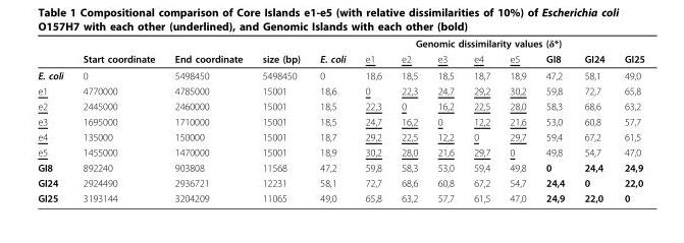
<table><thead><tr><td rowspan="2"></td><td rowspan="2">Start coordinate</td><td rowspan="2">End coordinate</td><td rowspan="2">size (bp)</td><td colspan="9">Genomic dissimilarity values (δ*)</td></tr><tr><td>E. coli</td><td>e1</td><td>e2</td><td>e3</td><td>e4</td><td>e5</td><td>GI8</td><td>GI24</td><td>GI25</td></tr></thead><tbody><tr><td>E. coli</td><td>0</td><td>5498450</td><td>5498450</td><td>0</td><td>18,6</td><td>18,5</td><td>18,5</td><td>18,7</td><td>18,9</td><td>47,2</td><td>58,1</td><td>49,0</td></tr><tr><td>e1</td><td>4770000</td><td>4785000</td><td>15001</td><td>18,6</td><td>0</td><td>22,3</td><td>24,7</td><td>29,2</td><td>30,2</td><td>59,8</td><td>72,7</td><td>65,8</td></tr><tr><td>e2</td><td>2445000</td><td>2460000</td><td>15001</td><td>18,5</td><td>22,3</td><td>0</td><td>16,2</td><td>22,5</td><td>28,0</td><td>58,3</td><td>68,6</td><td>63,2</td></tr><tr><td>e3</td><td>1695000</td><td>1710000</td><td>15001</td><td>18,5</td><td>24,7</td><td>16,2</td><td>0</td><td>12,2</td><td>21,6</td><td>53,0</td><td>60,8</td><td>57,7</td></tr><tr><td>e4</td><td>135000</td><td>150000</td><td>15001</td><td>18,7</td><td>29,2</td><td>22,5</td><td>12,2</td><td>0</td><td>29,7</td><td>59,4</td><td>67,2</td><td>61,5</td></tr><tr><td>e5</td><td>1455000</td><td>1470000</td><td>15001</td><td>18,9</td><td>30,2</td><td>28,0</td><td>21,6</td><td>29,7</td><td>0</td><td>49,8</td><td>54,7</td><td>47,0</td></tr><tr><td>GI8</td><td>892240</td><td>903808</td><td>11568</td><td>47,2</td><td>59,8</td><td>58,3</td><td>53,0</td><td>59,4</td><td>49,8</td><td>0</td><td>24,4</td><td>24,9</td></tr><tr><td>GI24</td><td>2924490</td><td>2936721</td><td>12231</td><td>58,1</td><td>72,7</td><td>68,6</td><td>60,8</td><td>67,2</td><td>54,7</td><td>24,4</td><td>0</td><td>22,0</td></tr><tr><td>GI25</td><td>3193144</td><td>3204209</td><td>11065</td><td>49,0</td><td>65,8</td><td>63,2</td><td>57,7</td><td>61,5</td><td>47,0</td><td>24,9</td><td>22,0</td><td>0</td></tr></tbody></table>